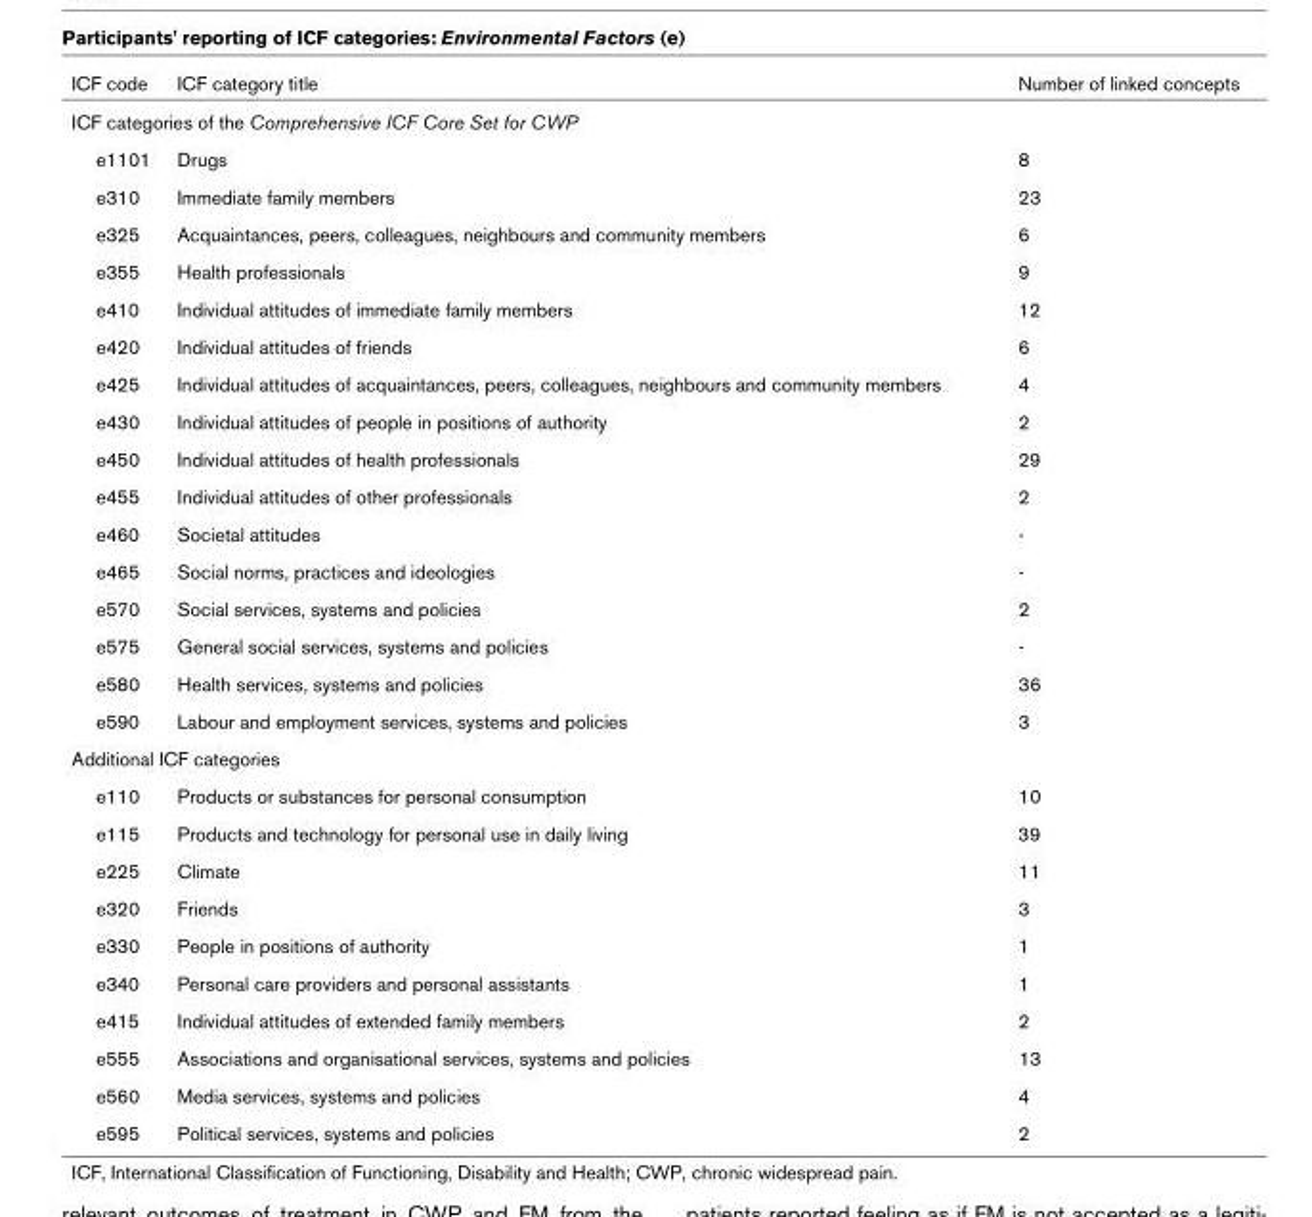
<table><thead><tr><td>ICF code</td><td>ICF category title</td><td>Number of linked concepts</td></tr></thead><tbody><tr><td colspan="3">ICF categories of the Comprehensive ICF Core Set for CWP</td></tr><tr><td>e1101</td><td>Drugs</td><td>8</td></tr><tr><td>e310</td><td>Immediate family members</td><td>23</td></tr><tr><td>e325</td><td>Acquaintances, peers, colleagues, neighbours and community members</td><td>6</td></tr><tr><td>e355</td><td>Health professionals</td><td>9</td></tr><tr><td>e410</td><td>Individual attitudes of immediate family members</td><td>12</td></tr><tr><td>e420</td><td>Individual attitudes of friends</td><td>6</td></tr><tr><td>e425</td><td>Individual attitudes of acquaintances, peers, colleagues, neighbours and community members</td><td>4</td></tr><tr><td>e430</td><td>Individual attitudes of people in positions of authority</td><td>2</td></tr><tr><td>e450</td><td>Individual attitudes of health professionals</td><td>29</td></tr><tr><td>e455</td><td>Individual attitudes of other professionals</td><td>2</td></tr><tr><td>e460</td><td>Societal attitudes</td><td>-</td></tr><tr><td>e465</td><td>Social norms, practices and ideologies</td><td>-</td></tr><tr><td>e570</td><td>Social services, systems and policies</td><td>2</td></tr><tr><td>e575</td><td>General social services, systems and policies</td><td>-</td></tr><tr><td>e580</td><td>Health services, systems and policies</td><td>36</td></tr><tr><td>e590</td><td>Labour and employment services, systems and policies</td><td>3</td></tr><tr><td colspan="3">Additional ICF categories</td></tr><tr><td>e110</td><td>Products or substances for personal consumption</td><td>10</td></tr><tr><td>e115</td><td>Products and technology for personal use in daily living</td><td>39</td></tr><tr><td>e225</td><td>Climate</td><td>11</td></tr><tr><td>e320</td><td>Friends</td><td>3</td></tr><tr><td>e330</td><td>People in positions of authority</td><td>1</td></tr><tr><td>e340</td><td>Personal care providers and personal assistants</td><td>1</td></tr><tr><td>e415</td><td>Individual attitudes of extended family members</td><td>2</td></tr><tr><td>e555</td><td>Associations and organisational services, systems and policies</td><td>13</td></tr><tr><td>e560</td><td>Media services, systems and policies</td><td>4</td></tr><tr><td>e595</td><td>Political services, systems and policies</td><td>2</td></tr></tbody></table>